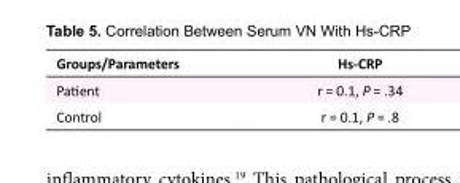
<table><tbody><tr><td>Groups/Parameters</td><td>Hs-CRP</td></tr><tr><td>Patient</td><td>r = 0.1, P = .34</td></tr><tr><td>Control</td><td>r = 0.1, P = .8</td></tr></tbody></table>